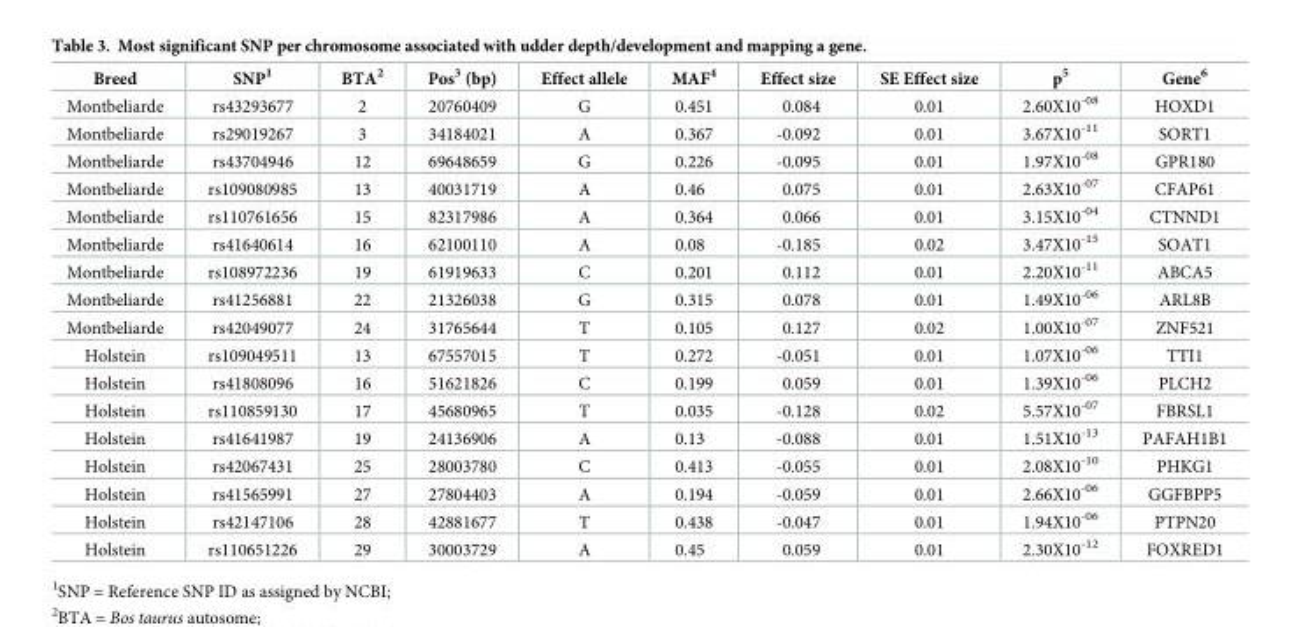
<table><thead><tr><td>Breed</td><td>SNP<sup>1</sup></td><td>BTA<sup>2</sup></td><td>Pos<sup>3</sup> (bp)</td><td>Effect allele</td><td>MAF<sup>4</sup></td><td>Effect size</td><td>SE Effect size</td><td>p<sup>5</sup></td><td>Gene<sup>6</sup></td></tr></thead><tbody><tr><td>Montbeliarde</td><td>rs43293677</td><td>2</td><td>20760409</td><td>G</td><td>0.451</td><td>0.084</td><td>0.01</td><td>2.60X10<sup>-08</sup></td><td>HOXD1</td></tr><tr><td>Montbeliarde</td><td>rs29019267</td><td>3</td><td>34184021</td><td>A</td><td>0.367</td><td>-0.092</td><td>0.01</td><td>3.67X10<sup>-11</sup></td><td>SORT1</td></tr><tr><td>Montbeliarde</td><td>rs43704946</td><td>12</td><td>69648659</td><td>G</td><td>0.226</td><td>-0.095</td><td>0.01</td><td>1.97X10<sup>-08</sup></td><td>GPR180</td></tr><tr><td>Montbeliarde</td><td>rs109080985</td><td>13</td><td>40031719</td><td>A</td><td>0.46</td><td>0.075</td><td>0.01</td><td>2.63X10<sup>-07</sup></td><td>CFAP61</td></tr><tr><td>Montbeliarde</td><td>rs110761656</td><td>15</td><td>82317986</td><td>A</td><td>0.364</td><td>0.066</td><td>0.01</td><td>3.15X10<sup>-04</sup></td><td>CTNND1</td></tr><tr><td>Montbeliarde</td><td>rs41640614</td><td>16</td><td>62100110</td><td>A</td><td>0.08</td><td>-0.185</td><td>0.02</td><td>3.47X10<sup>-15</sup></td><td>SOAT1</td></tr><tr><td>Montbeliarde</td><td>rs108972236</td><td>19</td><td>61919633</td><td>C</td><td>0.201</td><td>0.112</td><td>0.01</td><td>2.20X10<sup>-11</sup></td><td>ABCA5</td></tr><tr><td>Montbeliarde</td><td>rs41256881</td><td>22</td><td>21326038</td><td>G</td><td>0.315</td><td>0.078</td><td>0.01</td><td>1.49X10<sup>-06</sup></td><td>ARL8B</td></tr><tr><td>Montbeliarde</td><td>rs42049077</td><td>24</td><td>31765644</td><td>T</td><td>0.105</td><td>0.127</td><td>0.02</td><td>1.00X10<sup>-07</sup></td><td>ZNF521</td></tr><tr><td>Holstein</td><td>rs109049511</td><td>13</td><td>67557015</td><td>T</td><td>0.272</td><td>-0.051</td><td>0.01</td><td>1.07X10<sup>-06</sup></td><td>TTI1</td></tr><tr><td>Holstein</td><td>rs41808096</td><td>16</td><td>51621826</td><td>C</td><td>0.199</td><td>0.059</td><td>0.01</td><td>1.39X10<sup>-06</sup></td><td>PLCH2</td></tr><tr><td>Holstein</td><td>rs110859130</td><td>17</td><td>45680965</td><td>T</td><td>0.035</td><td>-0.128</td><td>0.02</td><td>5.57X10<sup>-07</sup></td><td>FBRSL1</td></tr><tr><td>Holstein</td><td>rs41641987</td><td>19</td><td>24136906</td><td>A</td><td>0.13</td><td>-0.088</td><td>0.01</td><td>1.51X10<sup>-13</sup></td><td>PAFAH1B1</td></tr><tr><td>Holstein</td><td>rs42067431</td><td>25</td><td>28003780</td><td>C</td><td>0.413</td><td>-0.055</td><td>0.01</td><td>2.08X10<sup>-10</sup></td><td>PHKG1</td></tr><tr><td>Holstein</td><td>rs41565991</td><td>27</td><td>27804403</td><td>A</td><td>0.194</td><td>-0.059</td><td>0.01</td><td>2.66X10<sup>-06</sup></td><td>GGFBPP5</td></tr><tr><td>Holstein</td><td>rs42147106</td><td>28</td><td>42881677</td><td>T</td><td>0.438</td><td>-0.047</td><td>0.01</td><td>1.94X10<sup>-06</sup></td><td>PTPN20</td></tr><tr><td>Holstein</td><td>rs110651226</td><td>29</td><td>30003729</td><td>A</td><td>0.45</td><td>0.059</td><td>0.01</td><td>2.30X10<sup>-12</sup></td><td>FOXRED1</td></tr></tbody></table>